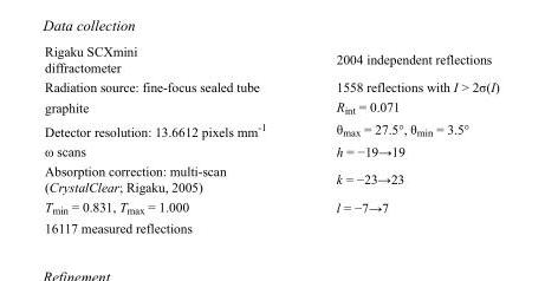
<table><tbody><tr><td>Rigaku SCXmini diffractometer</td><td>2004 independent reflections</td></tr><tr><td>Radiation source: fine-focus sealed tube</td><td>1558 reflections with I &gt; 2σ(I)</td></tr><tr><td>graphite</td><td>R<sub>int</sub> = 0.071</td></tr><tr><td>Detector resolution: 13.6612 pixels mm<sup>-1</sup></td><td>θ<sub>max</sub> = 27.5°, θ<sub>min</sub> = 3.5°</td></tr><tr><td>ω scans</td><td>h = −19→19</td></tr><tr><td>Absorption correction: multi-scan (CrystalClear; Rigaku, 2005)</td><td>k = −23→23</td></tr><tr><td>T<sub>min</sub> = 0.831, T<sub>max</sub> = 1.000</td><td>l = −7→7</td></tr><tr><td>16117 measured reflections</td><td></td></tr></tbody></table>